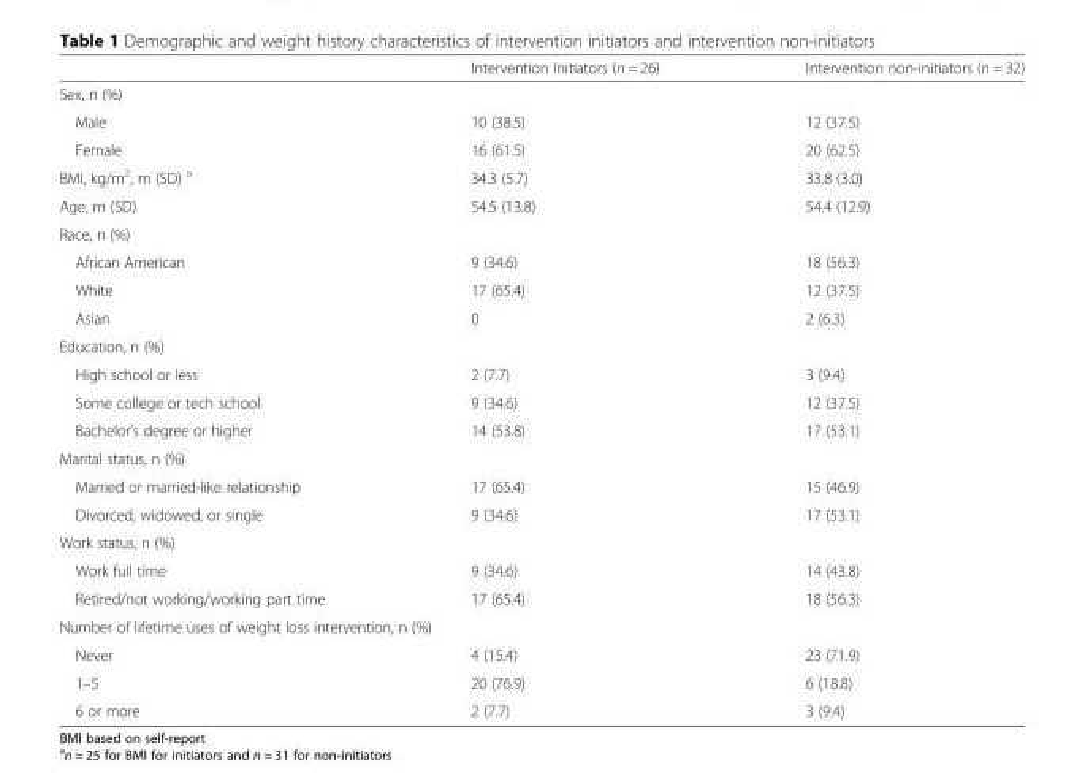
<table><thead><tr><td></td><td>Intervention Initiators (n = 26)</td><td>Intervention non-initiators (n = 32)</td></tr></thead><tbody><tr><td colspan="3">Sex, n (%)</td></tr><tr><td>Male</td><td>10 (38.5)</td><td>12 (37.5)</td></tr><tr><td>Female</td><td>16 (61.5)</td><td>20 (62.5)</td></tr><tr><td>BMI, kg/m<sup>2</sup>, m (SD) <sup>a</sup></td><td>34.3 (5.7)</td><td>33.8 (3.0)</td></tr><tr><td>Age, m (SD)</td><td>54.5 (13.8)</td><td>54.4 (12.9)</td></tr><tr><td colspan="3">Race, n (%)</td></tr><tr><td>African American</td><td>9 (34.6)</td><td>18 (56.3)</td></tr><tr><td>White</td><td>17 (65.4)</td><td>12 (37.5)</td></tr><tr><td>Asian</td><td>0</td><td>2 (6.3)</td></tr><tr><td colspan="3">Education, n (%)</td></tr><tr><td>High school or less</td><td>2 (7.7)</td><td>3 (9.4)</td></tr><tr><td>Some college or tech school</td><td>9 (34.6)</td><td>12 (37.5)</td></tr><tr><td>Bachelor’s degree or higher</td><td>14 (53.8)</td><td>17 (53.1)</td></tr><tr><td colspan="3">Marital status, n (%)</td></tr><tr><td>Married or married-like relationship</td><td>17 (65.4)</td><td>15 (46.9)</td></tr><tr><td>Divorced, widowed, or single</td><td>9 (34.6)</td><td>17 (53.1)</td></tr><tr><td colspan="3">Work status, n (%)</td></tr><tr><td>Work full time</td><td>9 (34.6)</td><td>14 (43.8)</td></tr><tr><td>Retired/not working/working part time</td><td>17 (65.4)</td><td>18 (56.3)</td></tr><tr><td colspan="3">Number of lifetime uses of weight loss intervention, n (%)</td></tr><tr><td>Never</td><td>4 (15.4)</td><td>23 (71.9)</td></tr><tr><td>1–5</td><td>20 (76.9)</td><td>6 (18.8)</td></tr><tr><td>6 or more</td><td>2 (7.7)</td><td>3 (9.4)</td></tr></tbody></table>